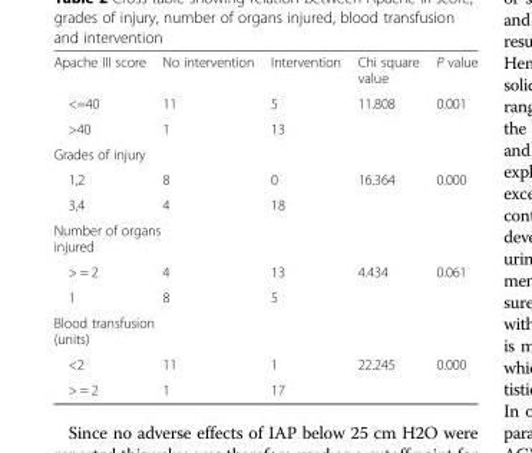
<table><tbody><tr><td>Apache III score</td><td>No intervention</td><td>Intervention</td><td>Chi square value</td><td>P value</td></tr><tr><td>&lt;=40</td><td>11</td><td>5</td><td rowspan="2">11.808</td><td rowspan="2">0.001</td></tr><tr><td>&gt;40</td><td>1</td><td>13</td></tr><tr><td colspan="5">Grades of injury</td></tr><tr><td>1,2</td><td>8</td><td>0</td><td rowspan="2">16.364</td><td rowspan="2">0.000</td></tr><tr><td>3,4</td><td>4</td><td>18</td></tr><tr><td colspan="5">Number of organs injured</td></tr><tr><td>&gt; = 2</td><td>4</td><td>13</td><td rowspan="2">4.434</td><td rowspan="2">0.061</td></tr><tr><td>1</td><td>8</td><td>5</td></tr><tr><td colspan="5">Blood transfusion (units)</td></tr><tr><td>&lt;2</td><td>11</td><td>1</td><td rowspan="2">22.245</td><td rowspan="2">0.000</td></tr><tr><td>&gt; = 2</td><td>1</td><td>17</td></tr></tbody></table>